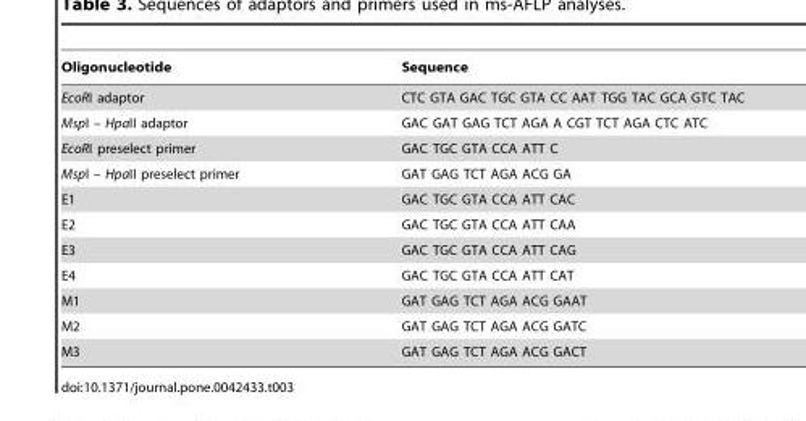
<table><thead><tr><td>Oligonucleotide</td><td>Sequence</td></tr></thead><tbody><tr><td>EcoRI adaptor</td><td>CTC GTA GAC TGC GTA CC AAT TGG TAC GCA GTC TAC</td></tr><tr><td>MspI – HpaII adaptor</td><td>GAC GAT GAG TCT AGA A CGT TCT AGA CTC ATC</td></tr><tr><td>EcoRI preselect primer</td><td>GAC TGC GTA CCA ATT C</td></tr><tr><td>MspI – HpaII preselect primer</td><td>GAT GAG TCT AGA ACG GA</td></tr><tr><td>E1</td><td>GAC TGC GTA CCA ATT CAC</td></tr><tr><td>E2</td><td>GAC TGC GTA CCA ATT CAA</td></tr><tr><td>E3</td><td>GAC TGC GTA CCA ATT CAG</td></tr><tr><td>E4</td><td>GAC TGC GTA CCA ATT CAT</td></tr><tr><td>M1</td><td>GAT GAG TCT AGA ACG GAAT</td></tr><tr><td>M2</td><td>GAT GAG TCT AGA ACG GATC</td></tr><tr><td>M3</td><td>GAT GAG TCT AGA ACG GACT</td></tr></tbody></table>